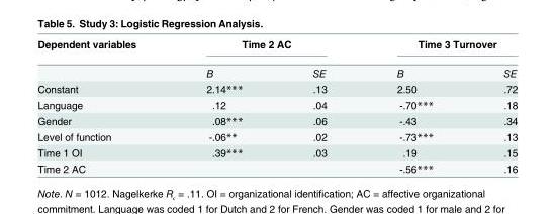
<table><thead><tr><td rowspan="2">Dependent variables</td><td colspan="2">Time 2 AC</td><td colspan="2">Time 3 Turnover</td></tr><tr><td>B</td><td>SE</td><td>B</td><td>SE</td></tr></thead><tbody><tr><td>Constant</td><td>2.14***</td><td>.13</td><td>2.50</td><td>.72</td></tr><tr><td>Language</td><td>.12</td><td>.04</td><td>-.70***</td><td>.18</td></tr><tr><td>Gender</td><td>.08***</td><td>.06</td><td>-.43</td><td>.34</td></tr><tr><td>Level of function</td><td>-.06**</td><td>.02</td><td>-.73***</td><td>.13</td></tr><tr><td>Time 1 OI</td><td>.39***</td><td>.03</td><td>.19</td><td>.15</td></tr><tr><td>Time 2 AC</td><td></td><td></td><td>-.56***</td><td>.16</td></tr></tbody></table>